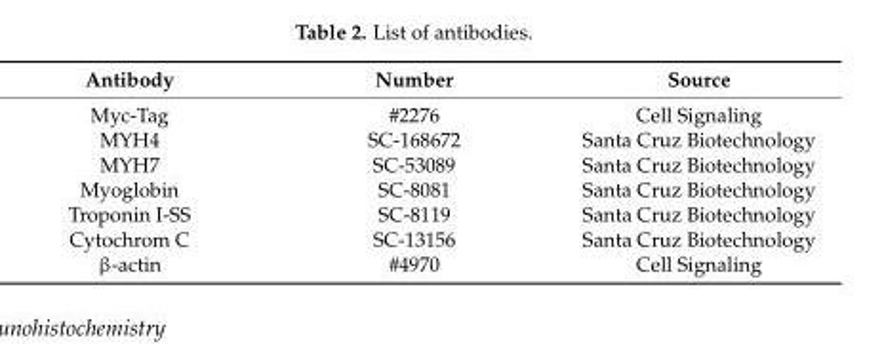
<table><thead><tr><td>Antibody</td><td>Number</td><td>Source</td></tr></thead><tbody><tr><td>Myc-Tag</td><td>#2276</td><td>Cell Signaling</td></tr><tr><td>MYH4</td><td>SC-168672</td><td>Santa Cruz Biotechnology</td></tr><tr><td>MYH7</td><td>SC-53089</td><td>Santa Cruz Biotechnology</td></tr><tr><td>Myoglobin</td><td>SC-8081</td><td>Santa Cruz Biotechnology</td></tr><tr><td>Troponin I-SS</td><td>SC-8119</td><td>Santa Cruz Biotechnology</td></tr><tr><td>Cytochrom C</td><td>SC-13156</td><td>Santa Cruz Biotechnology</td></tr><tr><td>β-actin</td><td>#4970</td><td>Cell Signaling</td></tr></tbody></table>